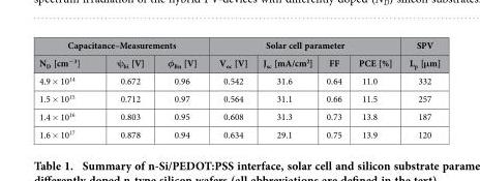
<table><thead><tr><td colspan="3">Capacitance–Measurements</td><td colspan="4">Solar cell parameter</td><td rowspan="2">SPV L<sub>p</sub> [μm]</td></tr><tr><td>N<sub>D</sub> [cm<sup>−3</sup>]</td><td>ψ<sub>bi</sub> [V]</td><td>φ<sub>Bn</sub> [V]</td><td>V<sub>oc</sub> [V]</td><td>J<sub>sc</sub> [mA/cm<sup>2</sup>]</td><td>FF</td><td>PCE [%]</td></tr></thead><tbody><tr><td>4.9 × 10<sup>14</sup></td><td>0.672</td><td>0.96</td><td>0.542</td><td>31.6</td><td>0.64</td><td>11.0</td><td>332</td></tr><tr><td>1.5 × 10<sup>15</sup></td><td>0.712</td><td>0.97</td><td>0.564</td><td>31.1</td><td>0.66</td><td>11.5</td><td>257</td></tr><tr><td>1.4 × 10<sup>16</sup></td><td>0.803</td><td>0.95</td><td>0.608</td><td>31.3</td><td>0.73</td><td>13.8</td><td>187</td></tr><tr><td>1.6 × 10<sup>17</sup></td><td>0.878</td><td>0.94</td><td>0.634</td><td>29.1</td><td>0.75</td><td>13.9</td><td>120</td></tr></tbody></table>